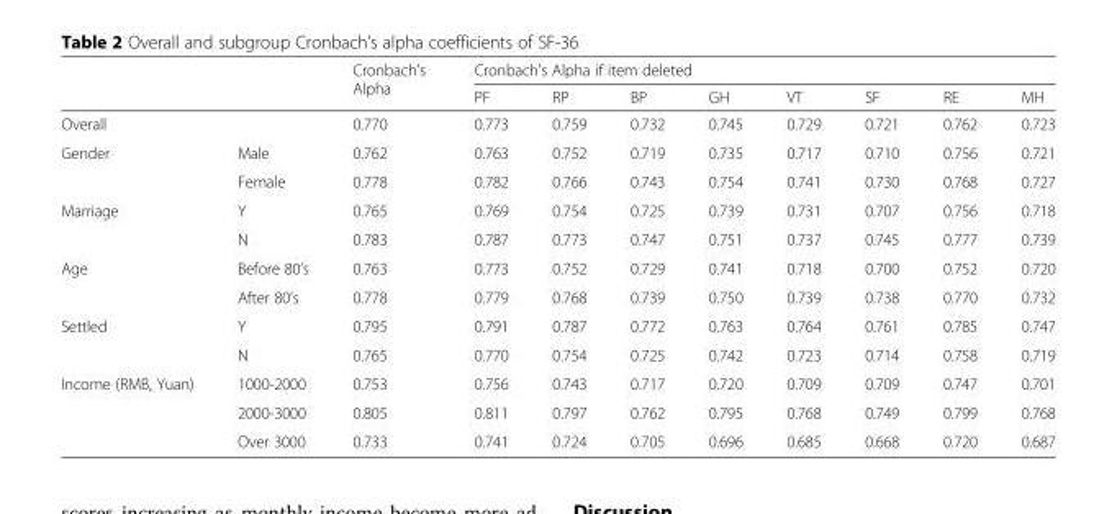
<table><thead><tr><td rowspan="2"></td><td rowspan="2"></td><td rowspan="2">Cronbach&#x27;s Alpha</td><td colspan="8">Cronbach&#x27;s Alpha if item deleted</td></tr><tr><td>PF</td><td>RP</td><td>BP</td><td>GH</td><td>VT</td><td>SF</td><td>RE</td><td>MH</td></tr></thead><tbody><tr><td colspan="2">Overall</td><td>0.770</td><td>0.773</td><td>0.759</td><td>0.732</td><td>0.745</td><td>0.729</td><td>0.721</td><td>0.762</td><td>0.723</td></tr><tr><td rowspan="2">Gender</td><td>Male</td><td>0.762</td><td>0.763</td><td>0.752</td><td>0.719</td><td>0.735</td><td>0.717</td><td>0.710</td><td>0.756</td><td>0.721</td></tr><tr><td>Female</td><td>0.778</td><td>0.782</td><td>0.766</td><td>0.743</td><td>0.754</td><td>0.741</td><td>0.730</td><td>0.768</td><td>0.727</td></tr><tr><td rowspan="2">Marriage</td><td>Y</td><td>0.765</td><td>0.769</td><td>0.754</td><td>0.725</td><td>0.739</td><td>0.731</td><td>0.707</td><td>0.756</td><td>0.718</td></tr><tr><td>N</td><td>0.783</td><td>0.787</td><td>0.773</td><td>0.747</td><td>0.751</td><td>0.737</td><td>0.745</td><td>0.777</td><td>0.739</td></tr><tr><td rowspan="2">Age</td><td>Before 80’s</td><td>0.763</td><td>0.773</td><td>0.752</td><td>0.729</td><td>0.741</td><td>0.718</td><td>0.700</td><td>0.752</td><td>0.720</td></tr><tr><td>After 80’s</td><td>0.778</td><td>0.779</td><td>0.768</td><td>0.739</td><td>0.750</td><td>0.739</td><td>0.738</td><td>0.770</td><td>0.732</td></tr><tr><td rowspan="2">Settled</td><td>Y</td><td>0.795</td><td>0.791</td><td>0.787</td><td>0.772</td><td>0.763</td><td>0.764</td><td>0.761</td><td>0.785</td><td>0.747</td></tr><tr><td>N</td><td>0.765</td><td>0.770</td><td>0.754</td><td>0.725</td><td>0.742</td><td>0.723</td><td>0.714</td><td>0.758</td><td>0.719</td></tr><tr><td rowspan="3">Income (RMB, Yuan)</td><td>1000-2000</td><td>0.753</td><td>0.756</td><td>0.743</td><td>0.717</td><td>0.720</td><td>0.709</td><td>0.709</td><td>0.747</td><td>0.701</td></tr><tr><td>2000-3000</td><td>0.805</td><td>0.811</td><td>0.797</td><td>0.762</td><td>0.795</td><td>0.768</td><td>0.749</td><td>0.799</td><td>0.768</td></tr><tr><td>Over 3000</td><td>0.733</td><td>0.741</td><td>0.724</td><td>0.705</td><td>0.696</td><td>0.685</td><td>0.668</td><td>0.720</td><td>0.687</td></tr></tbody></table>